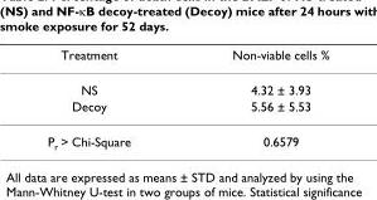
<table><thead><tr><td>Treatment</td><td>Non-viable cells %</td></tr></thead><tbody><tr><td>NS</td><td>4.32 ± 3.93</td></tr><tr><td>Decoy</td><td>5.56 ± 5.53</td></tr><tr><td>P<sub>r</sub> &gt; Chi-Square</td><td>0.6579</td></tr></tbody></table>